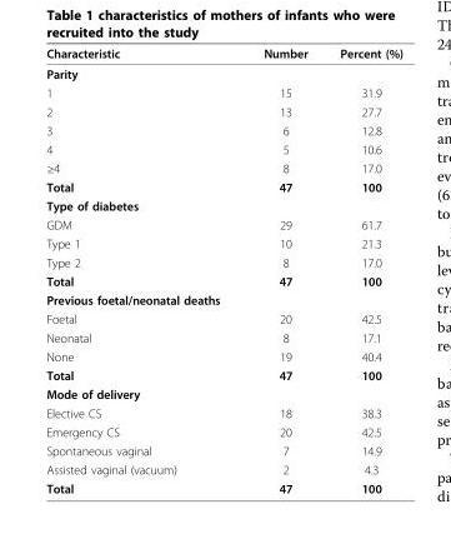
<table><thead><tr><td>Characteristic</td><td>Number</td><td>Percent (%)</td></tr></thead><tbody><tr><td colspan="3">Parity</td></tr><tr><td>1</td><td>15</td><td>31.9</td></tr><tr><td>2</td><td>13</td><td>27.7</td></tr><tr><td>3</td><td>6</td><td>12.8</td></tr><tr><td>4</td><td>5</td><td>10.6</td></tr><tr><td>≥4</td><td>8</td><td>17.0</td></tr><tr><td>Total</td><td>47</td><td>100</td></tr><tr><td colspan="3">Type of diabetes</td></tr><tr><td>GDM</td><td>29</td><td>61.7</td></tr><tr><td>Type 1</td><td>10</td><td>21.3</td></tr><tr><td>Type 2</td><td>8</td><td>17.0</td></tr><tr><td>Total</td><td>47</td><td>100</td></tr><tr><td colspan="3">Previous foetal/neonatal deaths</td></tr><tr><td>Foetal</td><td>20</td><td>42.5</td></tr><tr><td>Neonatal</td><td>8</td><td>17.1</td></tr><tr><td>None</td><td>19</td><td>40.4</td></tr><tr><td>Total</td><td>47</td><td>100</td></tr><tr><td colspan="3">Mode of delivery</td></tr><tr><td>Elective CS</td><td>18</td><td>38.3</td></tr><tr><td>Emergency CS</td><td>20</td><td>42.5</td></tr><tr><td>Spontaneous vaginal</td><td>7</td><td>14.9</td></tr><tr><td>Assisted vaginal (vacuum)</td><td>2</td><td>4.3</td></tr><tr><td>Total</td><td>47</td><td>100</td></tr></tbody></table>